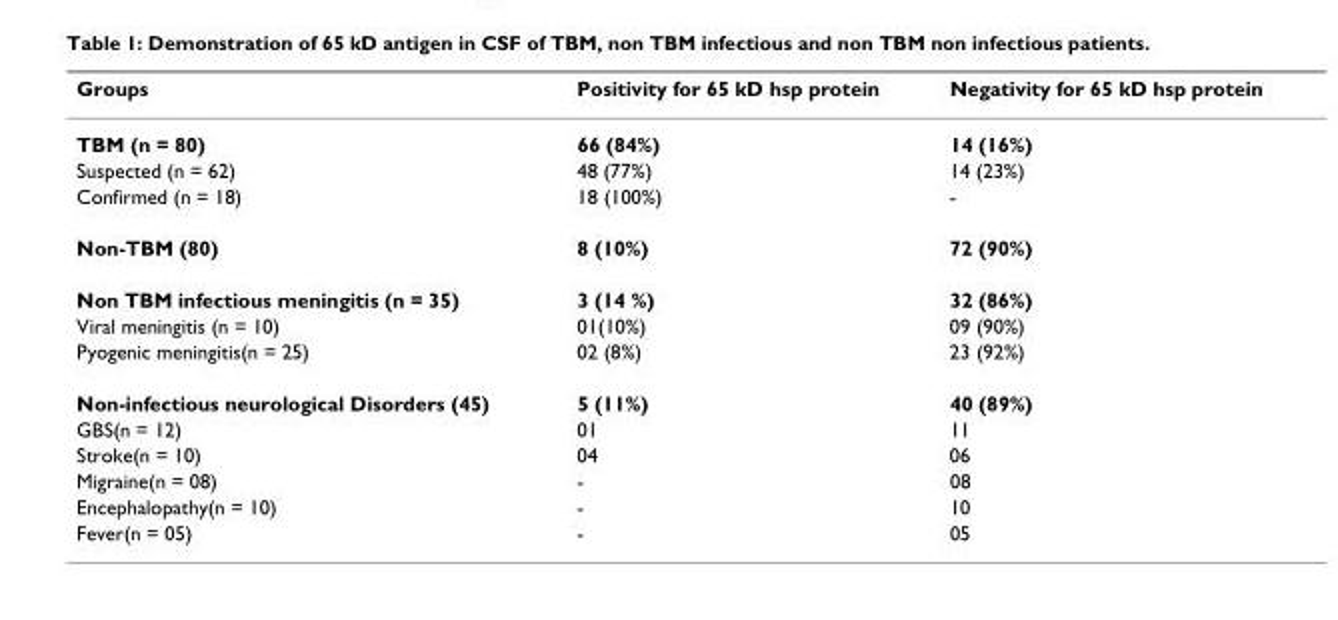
<table><thead><tr><td>Groups</td><td>Positivity for 65 kD hsp protein</td><td>Negativity for 65 kD hsp protein</td></tr></thead><tbody><tr><td>TBM (n = 80)</td><td>66 (84%)</td><td>14 (16%)</td></tr><tr><td>Suspected (n = 62)</td><td>48 (77%)</td><td>14 (23%)</td></tr><tr><td>Confirmed (n = 18)</td><td>18 (100%)</td><td>-</td></tr><tr><td>Non-TBM (80)</td><td>8 (10%)</td><td>72 (90%)</td></tr><tr><td>Non TBM infectious meningitis (n = 35)</td><td>3 (14 %)</td><td>32 (86%)</td></tr><tr><td>Viral meningitis (n = 10)</td><td>01(10%)</td><td>09 (90%)</td></tr><tr><td>Pyogenic meningitis(n = 25)</td><td>02 (8%)</td><td>23 (92%)</td></tr><tr><td>Non-infectious neurological Disorders (45)</td><td>5 (11%)</td><td>40 (89%)</td></tr><tr><td>GBS(n = 12)</td><td>01</td><td>11</td></tr><tr><td>Stroke(n = 10)</td><td>04</td><td>06</td></tr><tr><td>Migraine(n = 08)</td><td>-</td><td>08</td></tr><tr><td>Encephalopathy(n = 10)</td><td>-</td><td>10</td></tr><tr><td>Fever(n = 05)</td><td>-</td><td>05</td></tr></tbody></table>